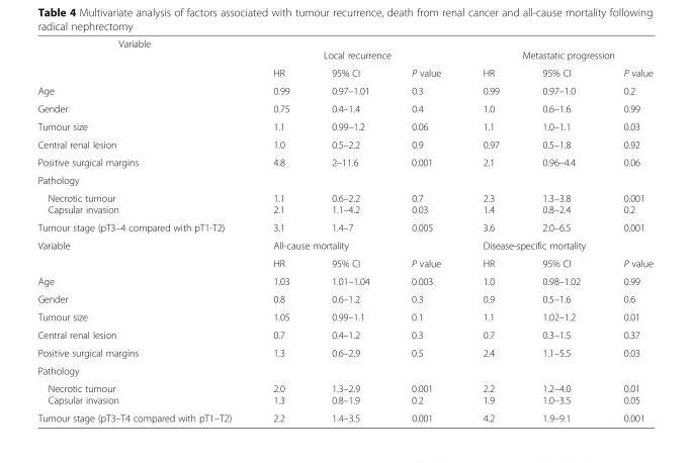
<table><tbody><tr><td rowspan="2">Variable</td><td colspan="3">Local recurrence</td><td colspan="3">Metastatic progression</td></tr><tr><td>HR</td><td>95% CI</td><td>P value</td><td>HR</td><td>95% CI</td><td>P value</td></tr><tr><td>Age</td><td>0.99</td><td>0.97–1.01</td><td>0.3</td><td>0.99</td><td>0.97–1.0</td><td>0.2</td></tr><tr><td>Gender</td><td>0.75</td><td>0.4–1.4</td><td>0.4</td><td>1.0</td><td>0.6–1.6</td><td>0.99</td></tr><tr><td>Tumour size</td><td>1.1</td><td>0.99–1.2</td><td>0.06</td><td>1.1</td><td>1.0–1.1</td><td>0.03</td></tr><tr><td>Central renal lesion</td><td>1.0</td><td>0.5–2.2</td><td>0.9</td><td>0.97</td><td>0.5–1.8</td><td>0.92</td></tr><tr><td>Positive surgical margins</td><td>4.8</td><td>2–11.6</td><td>0.001</td><td>2.1</td><td>0.96–4.4</td><td>0.06</td></tr><tr><td colspan="7">Pathology</td></tr><tr><td>Necrotic tumour Capsular invasion</td><td>1.1 2.1</td><td>0.6–2.2 1.1–4.2</td><td>0.7 0.03</td><td>2.3 1.4</td><td>1.3–3.8 0.8–2.4</td><td>0.001 0.2</td></tr><tr><td>Tumour stage (pT3–4 compared with pT1-T2)</td><td>3.1</td><td>1.4–7</td><td>0.005</td><td>3.6</td><td>2.0–6.5</td><td>0.001</td></tr><tr><td rowspan="2">Variable</td><td colspan="3">All-cause mortality</td><td colspan="3">Disease-specific mortality</td></tr><tr><td>HR</td><td>95% CI</td><td>P value</td><td>HR</td><td>95% CI</td><td>P value</td></tr><tr><td>Age</td><td>1.03</td><td>1.01–1.04</td><td>0.003</td><td>1.0</td><td>0.98–1.02</td><td>0.99</td></tr><tr><td>Gender</td><td>0.8</td><td>0.6–1.2</td><td>0.3</td><td>0.9</td><td>0.5–1.6</td><td>0.6</td></tr><tr><td>Tumour size</td><td>1.05</td><td>0.99–1.1</td><td>0.1</td><td>1.1</td><td>1.02–1.2</td><td>0.01</td></tr><tr><td>Central renal lesion</td><td>0.7</td><td>0.4–1.2</td><td>0.3</td><td>0.7</td><td>0.3–1.5</td><td>0.37</td></tr><tr><td>Positive surgical margins</td><td>1.3</td><td>0.6–2.9</td><td>0.5</td><td>2.4</td><td>1.1–5.5</td><td>0.03</td></tr><tr><td colspan="7">Pathology</td></tr><tr><td>Necrotic tumour Capsular invasion</td><td>2.0 1.3</td><td>1.3–2.9 0.8–1.9</td><td>0.001 0.2</td><td>2.2 1.9</td><td>1.2–4.0 1.0–3.5</td><td>0.01 0.05</td></tr><tr><td>Tumour stage (pT3–T4 compared with pT1–T2)</td><td>2.2</td><td>1.4–3.5</td><td>0.001</td><td>4.2</td><td>1.9–9.1</td><td>0.001</td></tr></tbody></table>